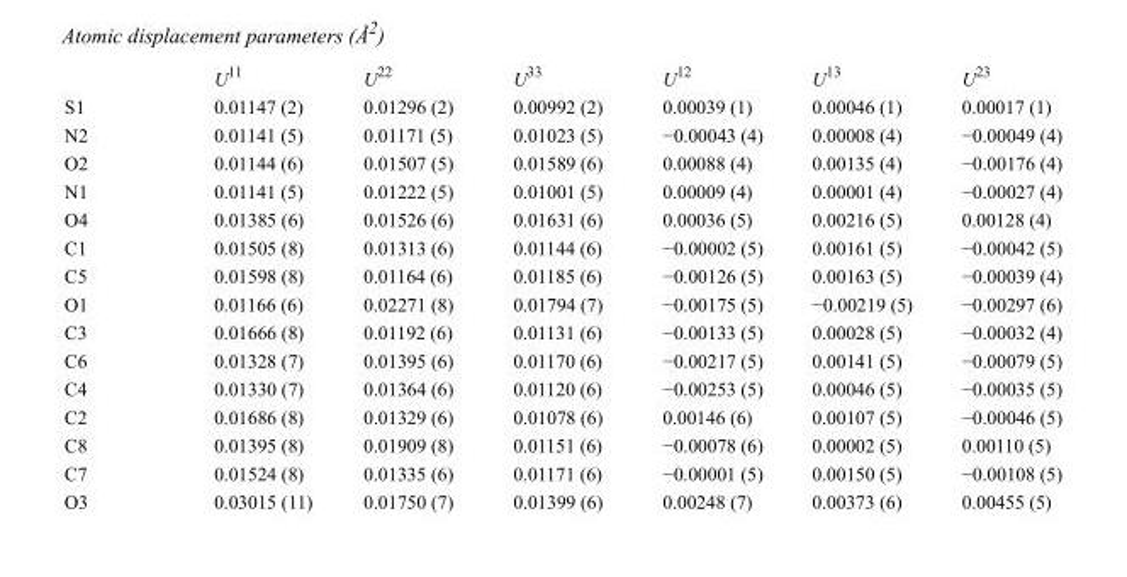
<table><thead><tr><td></td><td>U<sup>11</sup></td><td>U<sup>22</sup></td><td>U<sup>33</sup></td><td>U<sup>12</sup></td><td>U<sup>13</sup></td><td>U<sup>23</sup></td></tr></thead><tbody><tr><td>S1</td><td>0.01147 (2)</td><td>0.01296 (2)</td><td>0.00992 (2)</td><td>0.00039 (1)</td><td>0.00046 (1)</td><td>0.00017 (1)</td></tr><tr><td>N2</td><td>0.01141 (5)</td><td>0.01171 (5)</td><td>0.01023 (5)</td><td>−0.00043 (4)</td><td>0.00008 (4)</td><td>−0.00049 (4)</td></tr><tr><td>O2</td><td>0.01144 (6)</td><td>0.01507 (5)</td><td>0.01589 (6)</td><td>0.00088 (4)</td><td>0.00135 (4)</td><td>−0.00176 (4)</td></tr><tr><td>N1</td><td>0.01141 (5)</td><td>0.01222 (5)</td><td>0.01001 (5)</td><td>0.00009 (4)</td><td>0.00001 (4)</td><td>−0.00027 (4)</td></tr><tr><td>O4</td><td>0.01385 (6)</td><td>0.01526 (6)</td><td>0.01631 (6)</td><td>0.00036 (5)</td><td>0.00216 (5)</td><td>0.00128 (4)</td></tr><tr><td>C1</td><td>0.01505 (8)</td><td>0.01313 (6)</td><td>0.01144 (6)</td><td>−0.00002 (5)</td><td>0.00161 (5)</td><td>−0.00042 (5)</td></tr><tr><td>C5</td><td>0.01598 (8)</td><td>0.01164 (6)</td><td>0.01185 (6)</td><td>−0.00126 (5)</td><td>0.00163 (5)</td><td>−0.00039 (4)</td></tr><tr><td>O1</td><td>0.01166 (6)</td><td>0.02271 (8)</td><td>0.01794 (7)</td><td>−0.00175 (5)</td><td>−0.00219 (5)</td><td>−0.00297 (6)</td></tr><tr><td>C3</td><td>0.01666 (8)</td><td>0.01192 (6)</td><td>0.01131 (6)</td><td>−0.00133 (5)</td><td>0.00028 (5)</td><td>−0.00032 (4)</td></tr><tr><td>C6</td><td>0.01328 (7)</td><td>0.01395 (6)</td><td>0.01170 (6)</td><td>−0.00217 (5)</td><td>0.00141 (5)</td><td>−0.00079 (5)</td></tr><tr><td>C4</td><td>0.01330 (7)</td><td>0.01364 (6)</td><td>0.01120 (6)</td><td>−0.00253 (5)</td><td>0.00046 (5)</td><td>−0.00035 (5)</td></tr><tr><td>C2</td><td>0.01686 (8)</td><td>0.01329 (6)</td><td>0.01078 (6)</td><td>0.00146 (6)</td><td>0.00107 (5)</td><td>−0.00046 (5)</td></tr><tr><td>C8</td><td>0.01395 (8)</td><td>0.01909 (8)</td><td>0.01151 (6)</td><td>−0.00078 (6)</td><td>0.00002 (5)</td><td>0.00110 (5)</td></tr><tr><td>C7</td><td>0.01524 (8)</td><td>0.01335 (6)</td><td>0.01171 (6)</td><td>−0.00001 (5)</td><td>0.00150 (5)</td><td>−0.00108 (5)</td></tr><tr><td>O3</td><td>0.03015 (11)</td><td>0.01750 (7)</td><td>0.01399 (6)</td><td>0.00248 (7)</td><td>0.00373 (6)</td><td>0.00455 (5)</td></tr></tbody></table>